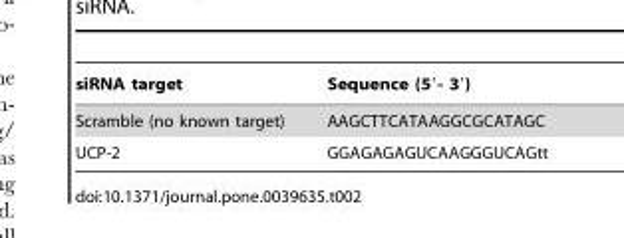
<table><thead><tr><td>siRNA target</td><td>Sequence (5′- 3′)</td></tr></thead><tbody><tr><td>Scramble (no known target)</td><td>AAGCTTCATAAGGCGCATAGC</td></tr><tr><td>UCP-2</td><td>GGAGAGAGUCAAGGGUCAGtt</td></tr></tbody></table>